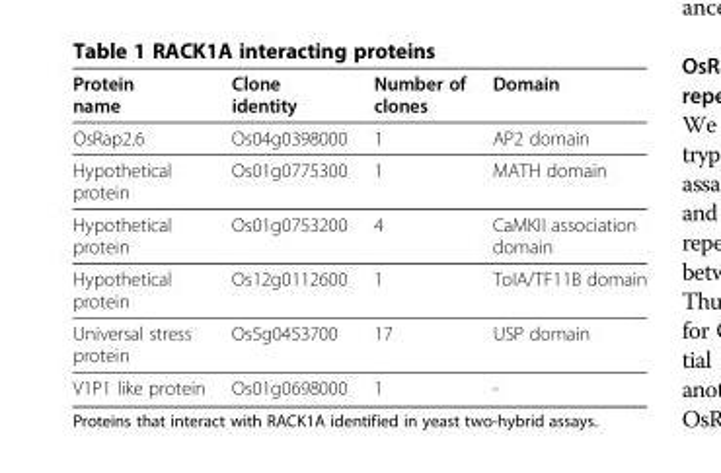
<table><thead><tr><td>Protein name</td><td>Clone identity</td><td>Number of clones</td><td>Domain</td></tr></thead><tbody><tr><td>OsRap2.6</td><td>Os04g0398000</td><td>1</td><td>AP2 domain</td></tr><tr><td>Hypothetical protein</td><td>Os01g0775300</td><td>1</td><td>MATH domain</td></tr><tr><td>Hypothetical protein</td><td>Os01g0753200</td><td>4</td><td>CaMKII association domain</td></tr><tr><td>Hypothetical protein</td><td>Os12g0112600</td><td>1</td><td>ToIA/TF11B domain</td></tr><tr><td>Universal stress protein</td><td>Os5g0453700</td><td>17</td><td>USP domain</td></tr><tr><td>V1P1 like protein</td><td>Os01g0698000</td><td>1</td><td>-</td></tr></tbody></table>